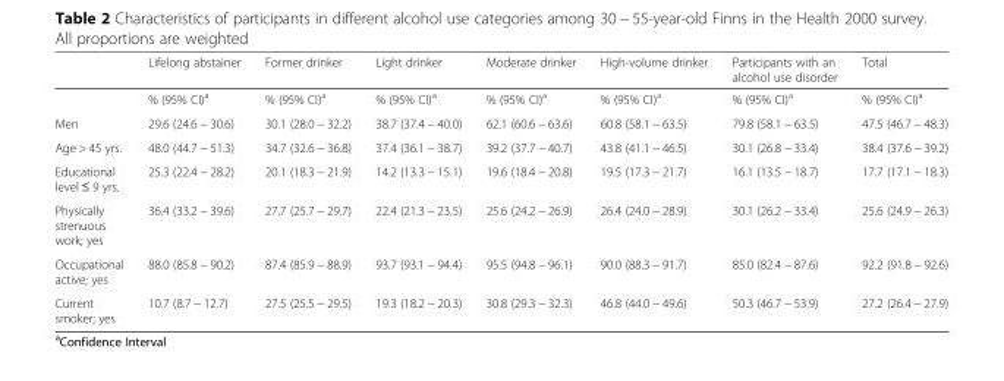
<table><thead><tr><td></td><td>Lifelong abstainer</td><td>Former drinker</td><td>Light drinker</td><td>Moderate drinker</td><td>High-volume drinker</td><td>Participants with an alcohol use disorder</td><td>Total</td></tr></thead><tbody><tr><td></td><td>% (95% CI)<sup>a</sup></td><td>% (95% CI)<sup>a</sup></td><td>% (95% CI)<sup>a</sup></td><td>% (95% CI)<sup>a</sup></td><td>% (95% CI)<sup>a</sup></td><td>% (95% CI)<sup>a</sup></td><td>% (95% CI)<sup>a</sup></td></tr><tr><td>Men</td><td>29.6 (24.6 − 30.6)</td><td>30.1 (28.0 − 32.2)</td><td>38.7 (37.4 − 40.0)</td><td>62.1 (60.6 − 63.6)</td><td>60.8 (58.1 − 63.5)</td><td>79.8 (58.1 − 63.5)</td><td>47.5 (46.7 − 48.3)</td></tr><tr><td>Age &gt; 45 yrs.</td><td>48.0 (44.7 − 51.3)</td><td>34.7 (32.6 − 36.8)</td><td>37.4 (36.1 − 38.7)</td><td>39.2 (37.7 − 40.7)</td><td>43.8 (41.1 − 46.5)</td><td>30.1 (26.8 − 33.4)</td><td>38.4 (37.6 − 39.2)</td></tr><tr><td>Educational level ≤ 9 yrs.</td><td>25.3 (22.4 − 28.2)</td><td>20.1 (18.3 − 21.9)</td><td>14.2 (13.3 − 15.1)</td><td>19.6 (18.4 − 20.8)</td><td>19.5 (17.3 − 21.7)</td><td>16.1 (13.5 − 18.7)</td><td>17.7 (17.1 − 18.3)</td></tr><tr><td>Physically strenuous work; yes</td><td>36.4 (33.2 − 39.6)</td><td>27.7 (25.7 − 29.7)</td><td>22.4 (21.3 − 23.5)</td><td>25.6 (24.2 − 26.9)</td><td>26.4 (24.0 − 28.9)</td><td>30.1 (26.2 − 33.4)</td><td>25.6 (24.9 − 26.3)</td></tr><tr><td>Occupational active; yes</td><td>88.0 (85.8 − 90.2)</td><td>87.4 (85.9 − 88.9)</td><td>93.7 (93.1 − 94.4)</td><td>95.5 (94.8 − 96.1)</td><td>90.0 (88.3 − 91.7)</td><td>85.0 (82.4 − 87.6)</td><td>92.2 (91.8 − 92.6)</td></tr><tr><td>Current smoker; yes</td><td>10.7 (8.7 − 12.7)</td><td>27.5 (25.5 − 29.5)</td><td>19.3 (18.2 − 20.3)</td><td>30.8 (29.3 − 32.3)</td><td>46.8 (44.0 − 49.6)</td><td>50.3 (46.7 − 53.9)</td><td>27.2 (26.4 − 27.9)</td></tr></tbody></table>